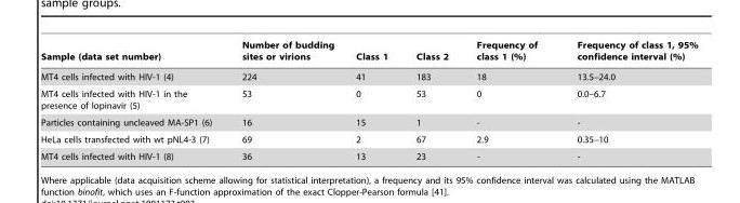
<table><thead><tr><td>Sample (data set number)</td><td>Number of budding sites or virions</td><td>Class 1</td><td>Class 2</td><td>Frequency of class 1 (%)</td><td>Frequency of class 1, 95% confidence interval (%)</td></tr></thead><tbody><tr><td>MT4 cells infected with HIV-1 (4)</td><td>224</td><td>41</td><td>183</td><td>18</td><td>13.5–24.0</td></tr><tr><td>MT4 cells infected with HIV-1 in the presence of lopinavir (5)</td><td>53</td><td>0</td><td>53</td><td>0</td><td>0.0–6.7</td></tr><tr><td>Particles containing uncleaved MA-SP1 (6)</td><td>16</td><td>15</td><td>1</td><td>-</td><td>-</td></tr><tr><td>HeLa cells transfected with wt pNL4-3 (7)</td><td>69</td><td>2</td><td>67</td><td>2.9</td><td>0.35–10</td></tr><tr><td>MT4 cells infected with HIV-1 (8)</td><td>36</td><td>13</td><td>23</td><td>-</td><td>-</td></tr></tbody></table>